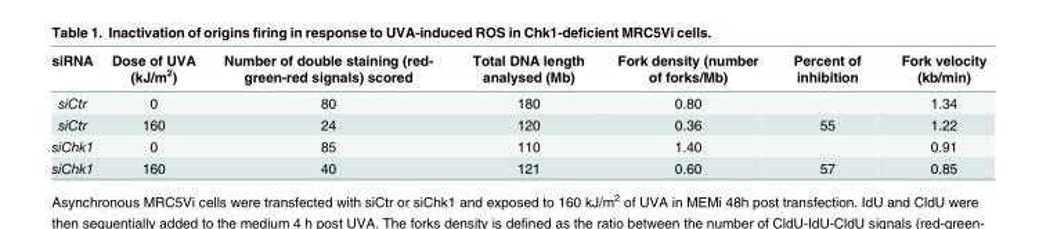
<table><thead><tr><td>siRNA</td><td>Dose of UVA (kJ/m<sup>2</sup>)</td><td>Number of double staining (red- green-red signals) scored</td><td>Total DNA length analysed (Mb)</td><td>Fork density (number of forks/Mb)</td><td>Percent of inhibition</td><td>Fork velocity (kb/min)</td></tr></thead><tbody><tr><td>siCtr</td><td>0</td><td>80</td><td>180</td><td>0.80</td><td></td><td>1.34</td></tr><tr><td>siCtr</td><td>160</td><td>24</td><td>120</td><td>0.36</td><td>55</td><td>1.22</td></tr><tr><td>siChk1</td><td>0</td><td>85</td><td>110</td><td>1.40</td><td></td><td>0.91</td></tr><tr><td>siChk1</td><td>160</td><td>40</td><td>121</td><td>0.60</td><td>57</td><td>0.85</td></tr></tbody></table>